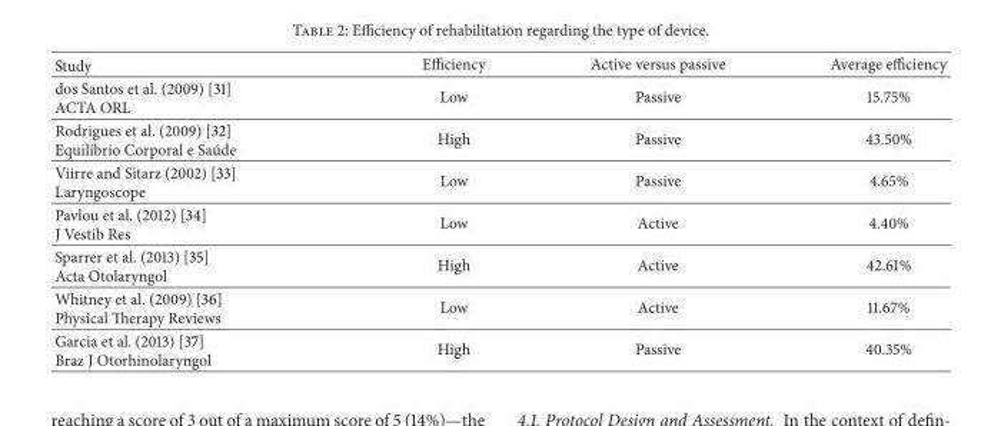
<table><thead><tr><td>Study</td><td>Efficiency</td><td>Active versus passive</td><td>Average efficiency</td></tr></thead><tbody><tr><td>dos Santos et al. (2009) [31] ACTA ORL</td><td>Low</td><td>Passive</td><td>15.75%</td></tr><tr><td>Rodrigues et al. (2009) [32] Equil´ıbrio Corporal e Sa´ude</td><td>High</td><td>Passive</td><td>43.50%</td></tr><tr><td>Viirre and Sitarz (2002) [33] Laryngoscope</td><td>Low</td><td>Passive</td><td>4.65%</td></tr><tr><td>Pavlou et al. (2012) [34] J Vestib Res</td><td>Low</td><td>Active</td><td>4.40%</td></tr><tr><td>Sparrer et al. (2013) [35] Acta Otolaryngol</td><td>High</td><td>Active</td><td>42.61%</td></tr><tr><td>Whitney et al. (2009) [36] Physical Therapy Reviews</td><td>Low</td><td>Active</td><td>11.67%</td></tr><tr><td>Garcia et al. (2013) [37] Braz J Otorhinolaryngol</td><td>High</td><td>Passive</td><td>40.35%</td></tr></tbody></table>